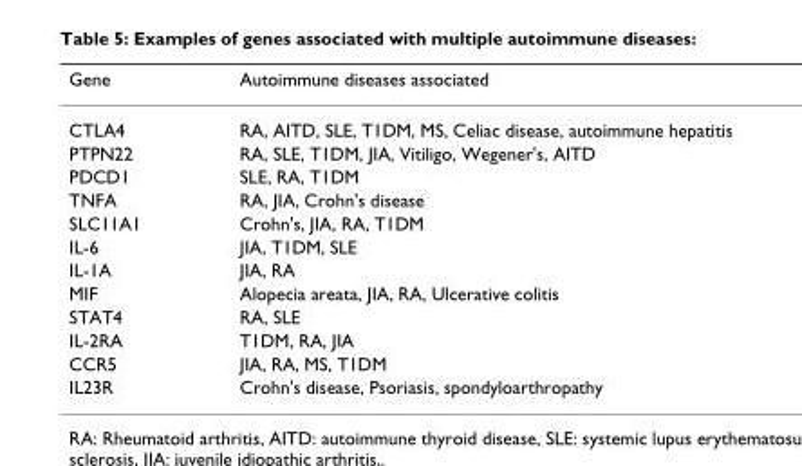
<table><thead><tr><td>Gene</td><td>Autoimmune diseases associated</td></tr></thead><tbody><tr><td>CTLA4</td><td>RA, AITD, SLE, T1DM, MS, Celiac disease, autoimmune hepatitis</td></tr><tr><td>PTPN22</td><td>RA, SLE, T1DM, JIA, Vitiligo, Wegener&#x27;s, AITD</td></tr><tr><td>PDCD1</td><td>SLE, RA, T1DM</td></tr><tr><td>TNFA</td><td>RA, JIA, Crohn&#x27;s disease</td></tr><tr><td>SLC11A1</td><td>Crohn&#x27;s, JIA, RA, T1DM</td></tr><tr><td>IL-6</td><td>JIA, T1DM, SLE</td></tr><tr><td>IL-1A</td><td>JIA, RA</td></tr><tr><td>MIF</td><td>Alopecia areata, JIA, RA, Ulcerative colitis</td></tr><tr><td>STAT4</td><td>RA, SLE</td></tr><tr><td>IL-2RA</td><td>T1DM, RA, JIA</td></tr><tr><td>CCR5</td><td>JIA, RA, MS, T1DM</td></tr><tr><td>IL23R</td><td>Crohn&#x27;s disease, Psoriasis, spondyloarthropathy</td></tr></tbody></table>